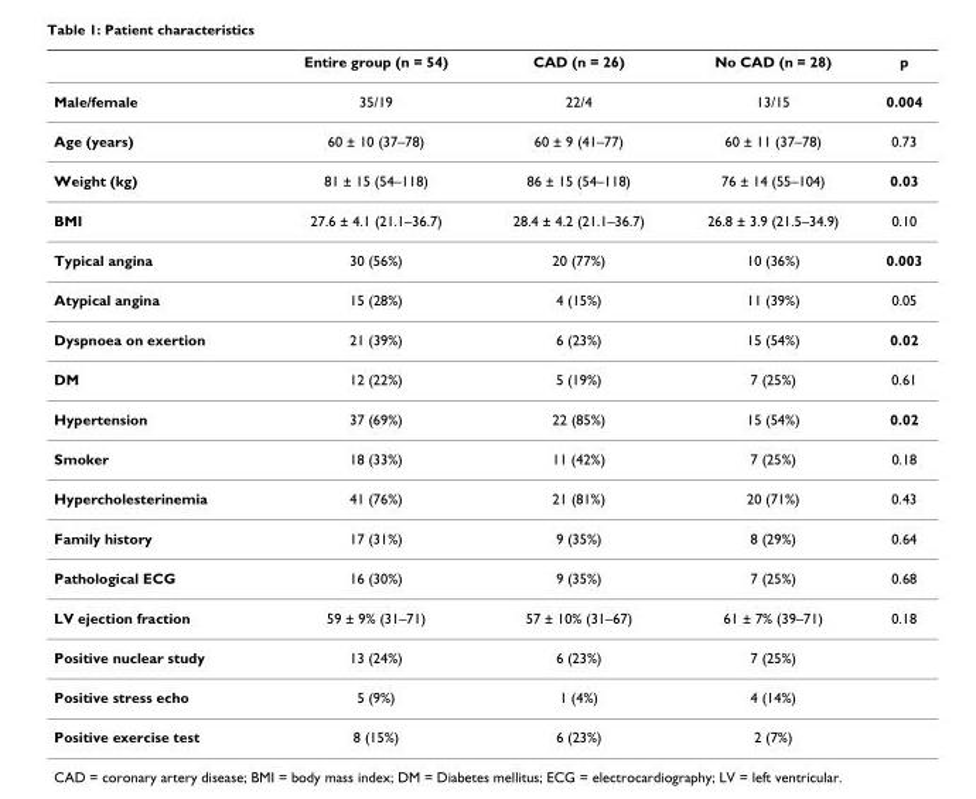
<table><thead><tr><td></td><td>Entire group (n = 54)</td><td>CAD (n = 26)</td><td>No CAD (n = 28)</td><td>p</td></tr></thead><tbody><tr><td>Male/female</td><td>35/19</td><td>22/4</td><td>13/15</td><td>0.004</td></tr><tr><td>Age (years)</td><td>60 ± 10 (37–78)</td><td>60 ± 9 (41–77)</td><td>60 ± 11 (37–78)</td><td>0.73</td></tr><tr><td>Weight (kg)</td><td>81 ± 15 (54–118)</td><td>86 ± 15 (54–118)</td><td>76 ± 14 (55–104)</td><td>0.03</td></tr><tr><td>BMI</td><td>27.6 ± 4.1 (21.1–36.7)</td><td>28.4 ± 4.2 (21.1–36.7)</td><td>26.8 ± 3.9 (21.5–34.9)</td><td>0.10</td></tr><tr><td>Typical angina</td><td>30 (56%)</td><td>20 (77%)</td><td>10 (36%)</td><td>0.003</td></tr><tr><td>Atypical angina</td><td>15 (28%)</td><td>4 (15%)</td><td>11 (39%)</td><td>0.05</td></tr><tr><td>Dyspnoea on exertion</td><td>21 (39%)</td><td>6 (23%)</td><td>15 (54%)</td><td>0.02</td></tr><tr><td>DM</td><td>12 (22%)</td><td>5 (19%)</td><td>7 (25%)</td><td>0.61</td></tr><tr><td>Hypertension</td><td>37 (69%)</td><td>22 (85%)</td><td>15 (54%)</td><td>0.02</td></tr><tr><td>Smoker</td><td>18 (33%)</td><td>11 (42%)</td><td>7 (25%)</td><td>0.18</td></tr><tr><td>Hypercholesterinemia</td><td>41 (76%)</td><td>21 (81%)</td><td>20 (71%)</td><td>0.43</td></tr><tr><td>Family history</td><td>17 (31%)</td><td>9 (35%)</td><td>8 (29%)</td><td>0.64</td></tr><tr><td>Pathological ECG</td><td>16 (30%)</td><td>9 (35%)</td><td>7 (25%)</td><td>0.68</td></tr><tr><td>LV ejection fraction</td><td>59 ± 9% (31–71)</td><td>57 ± 10% (31–67)</td><td>61 ± 7% (39–71)</td><td>0.18</td></tr><tr><td>Positive nuclear study</td><td>13 (24%)</td><td>6 (23%)</td><td>7 (25%)</td><td></td></tr><tr><td>Positive stress echo</td><td>5 (9%)</td><td>1 (4%)</td><td>4 (14%)</td><td></td></tr><tr><td>Positive exercise test</td><td>8 (15%)</td><td>6 (23%)</td><td>2 (7%)</td><td></td></tr></tbody></table>